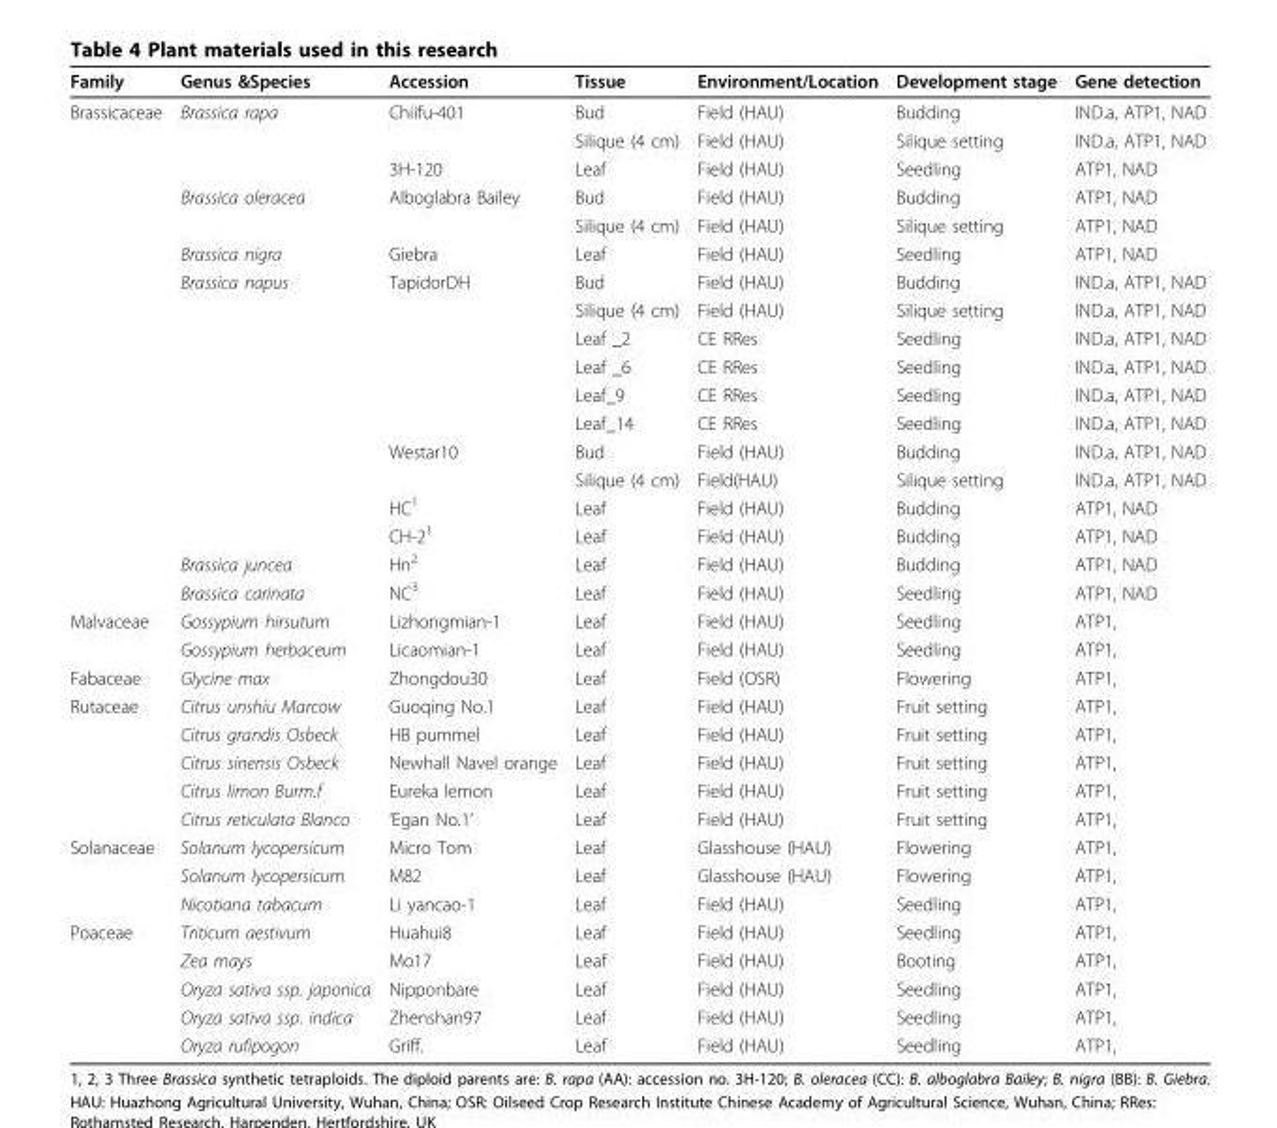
<table><thead><tr><td>Family</td><td>Genus &amp;Species</td><td>Accession</td><td>Tissue</td><td>Environment/Location</td><td>Development stage</td><td>Gene detection</td></tr></thead><tbody><tr><td rowspan="18">Brassicaceae</td><td>Brassica rapa</td><td>Chiifu-401</td><td>Bud</td><td>Field (HAU)</td><td>Budding</td><td>IND.a, ATP1, NAD</td></tr><tr><td></td><td></td><td>Silique (4 cm)</td><td>Field (HAU)</td><td>Silique setting</td><td>IND.a, ATP1, NAD</td></tr><tr><td></td><td>3H-120</td><td>Leaf</td><td>Field (HAU)</td><td>Seedling</td><td>ATP1, NAD</td></tr><tr><td>Brassica oleracea</td><td>Alboglabra Bailey</td><td>Bud</td><td>Field (HAU)</td><td>Budding</td><td>ATP1, NAD</td></tr><tr><td></td><td></td><td>Silique (4 cm)</td><td>Field (HAU)</td><td>Silique setting</td><td>ATP1, NAD</td></tr><tr><td>Brassica nigra</td><td>Giebra</td><td>Leaf</td><td>Field (HAU)</td><td>Seedling</td><td>ATP1, NAD</td></tr><tr><td>Brassica napus</td><td>TapidorDH</td><td>Bud</td><td>Field (HAU)</td><td>Budding</td><td>IND.a, ATP1, NAD</td></tr><tr><td></td><td></td><td>Silique (4 cm)</td><td>Field (HAU)</td><td>Silique setting</td><td>IND.a, ATP1, NAD</td></tr><tr><td></td><td></td><td>Leaf _2</td><td>CE RRes</td><td>Seedling</td><td>IND.a, ATP1, NAD</td></tr><tr><td></td><td></td><td>Leaf _6</td><td>CE RRes</td><td>Seedling</td><td>IND.a, ATP1, NAD</td></tr><tr><td></td><td></td><td>Leaf_9</td><td>CE RRes</td><td>Seedling</td><td>IND.a, ATP1, NAD</td></tr><tr><td></td><td></td><td>Leaf_14</td><td>CE RRes</td><td>Seedling</td><td>IND.a, ATP1, NAD</td></tr><tr><td></td><td>Westar10</td><td>Bud</td><td>Field (HAU)</td><td>Budding</td><td>IND.a, ATP1, NAD</td></tr><tr><td></td><td></td><td>Silique (4 cm)</td><td>Field(HAU)</td><td>Silique setting</td><td>IND.a, ATP1, NAD</td></tr><tr><td></td><td>HC<sup>1</sup></td><td>Leaf</td><td>Field (HAU)</td><td>Budding</td><td>ATP1, NAD</td></tr><tr><td></td><td>CH-2<sup>1</sup></td><td>Leaf</td><td>Field (HAU)</td><td>Budding</td><td>ATP1, NAD</td></tr><tr><td>Brassica juncea</td><td>Hn<sup>2</sup></td><td>Leaf</td><td>Field (HAU)</td><td>Budding</td><td>ATP1, NAD</td></tr><tr><td>Brassica carinata</td><td>NC<sup>3</sup></td><td>Leaf</td><td>Field (HAU)</td><td>Seedling</td><td>ATP1, NAD</td></tr><tr><td rowspan="2">Malvaceae</td><td>Gossypium hirsutum</td><td>Lizhongmian-1</td><td>Leaf</td><td>Field (HAU)</td><td>Seedling</td><td>ATP1,</td></tr><tr><td>Gossypium herbaceum</td><td>Licaomian-1</td><td>Leaf</td><td>Field (HAU)</td><td>Seedling</td><td>ATP1,</td></tr><tr><td>Fabaceae</td><td>Glycine max</td><td>Zhongdou30</td><td>Leaf</td><td>Field (OSR)</td><td>Flowering</td><td>ATP1,</td></tr><tr><td rowspan="5">Rutaceae</td><td>Citrus unshiu Marcow</td><td>Guoqing No.1</td><td>Leaf</td><td>Field (HAU)</td><td>Fruit setting</td><td>ATP1,</td></tr><tr><td>Citrus grandis Osbeck</td><td>HB pummel</td><td>Leaf</td><td>Field (HAU)</td><td>Fruit setting</td><td>ATP1,</td></tr><tr><td>Citrus sinensis Osbeck</td><td>Newhall Navel orange</td><td>Leaf</td><td>Field (HAU)</td><td>Fruit setting</td><td>ATP1,</td></tr><tr><td>Citrus limon Burm.f</td><td>Eureka lemon</td><td>Leaf</td><td>Field (HAU)</td><td>Fruit setting</td><td>ATP1,</td></tr><tr><td>Citrus reticulata Blanco</td><td>’Egan No.1’</td><td>Leaf</td><td>Field (HAU)</td><td>Fruit setting</td><td>ATP1,</td></tr><tr><td rowspan="3">Solanaceae</td><td>Solanum lycopersicum</td><td>Micro Tom</td><td>Leaf</td><td>Glasshouse (HAU)</td><td>Flowering</td><td>ATP1,</td></tr><tr><td>Solanum lycopersicum</td><td>M82</td><td>Leaf</td><td>Glasshouse (HAU)</td><td>Flowering</td><td>ATP1,</td></tr><tr><td>Nicotiana tabacum</td><td>Li yancao-1</td><td>Leaf</td><td>Field (HAU)</td><td>Seedling</td><td>ATP1,</td></tr><tr><td rowspan="5">Poaceae</td><td>Triticum aestivum</td><td>Huahui8</td><td>Leaf</td><td>Field (HAU)</td><td>Seedling</td><td>ATP1,</td></tr><tr><td>Zea mays</td><td>Mo17</td><td>Leaf</td><td>Field (HAU)</td><td>Booting</td><td>ATP1,</td></tr><tr><td>Oryza sativa ssp. japonica</td><td>Nipponbare</td><td>Leaf</td><td>Field (HAU)</td><td>Seedling</td><td>ATP1,</td></tr><tr><td>Oryza sativa ssp. indica</td><td>Zhenshan97</td><td>Leaf</td><td>Field (HAU)</td><td>Seedling</td><td>ATP1,</td></tr><tr><td>Oryza rufipogon</td><td>Griff.</td><td>Leaf</td><td>Field (HAU)</td><td>Seedling</td><td>ATP1,</td></tr></tbody></table>